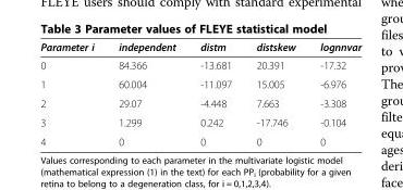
<table><thead><tr><td>Parameter i</td><td>independent</td><td>distm</td><td>distskew</td><td>lognnvar</td></tr></thead><tbody><tr><td>0</td><td>84.366</td><td>-13.681</td><td>20.391</td><td>-17.32</td></tr><tr><td>1</td><td>60.004</td><td>-11.097</td><td>15.005</td><td>-6.976</td></tr><tr><td>2</td><td>29.07</td><td>-4.448</td><td>7.663</td><td>-3.308</td></tr><tr><td>3</td><td>1.299</td><td>0.242</td><td>-17.746</td><td>-0.104</td></tr><tr><td>4</td><td>0</td><td>0</td><td>0</td><td>0</td></tr></tbody></table>